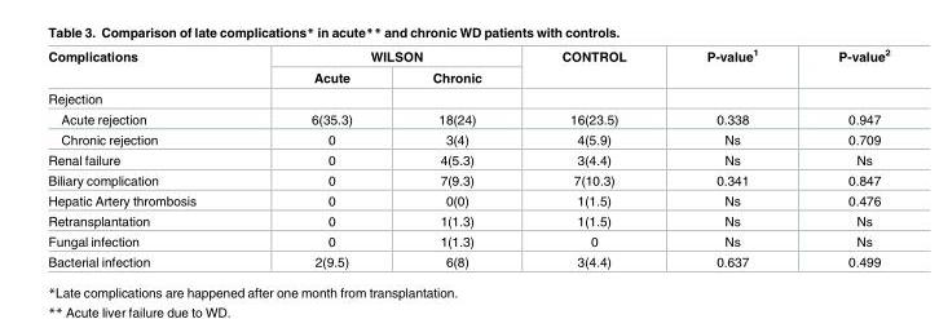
<table><thead><tr><td rowspan="2">Complications</td><td colspan="2">WILSON</td><td rowspan="2">CONTROL</td><td rowspan="2">P-value<sup>1</sup></td><td rowspan="2">P-value<sup>2</sup></td></tr><tr><td>Acute</td><td>Chronic</td></tr></thead><tbody><tr><td colspan="6">Rejection</td></tr><tr><td>Acute rejection</td><td>6(35.3)</td><td>18(24)</td><td>16(23.5)</td><td>0.338</td><td>0.947</td></tr><tr><td>Chronic rejection</td><td>0</td><td>3(4)</td><td>4(5.9)</td><td>Ns</td><td>0.709</td></tr><tr><td>Renal failure</td><td>0</td><td>4(5.3)</td><td>3(4.4)</td><td>Ns</td><td>Ns</td></tr><tr><td>Biliary complication</td><td>0</td><td>7(9.3)</td><td>7(10.3)</td><td>0.341</td><td>0.847</td></tr><tr><td>Hepatic Artery thrombosis</td><td>0</td><td>0(0)</td><td>1(1.5)</td><td>Ns</td><td>0.476</td></tr><tr><td>Retransplantation</td><td>0</td><td>1(1.3)</td><td>1(1.5)</td><td>Ns</td><td>Ns</td></tr><tr><td>Fungal infection</td><td>0</td><td>1(1.3)</td><td>0</td><td>Ns</td><td>Ns</td></tr><tr><td>Bacterial infection</td><td>2(9.5)</td><td>6(8)</td><td>3(4.4)</td><td>0.637</td><td>0.499</td></tr></tbody></table>